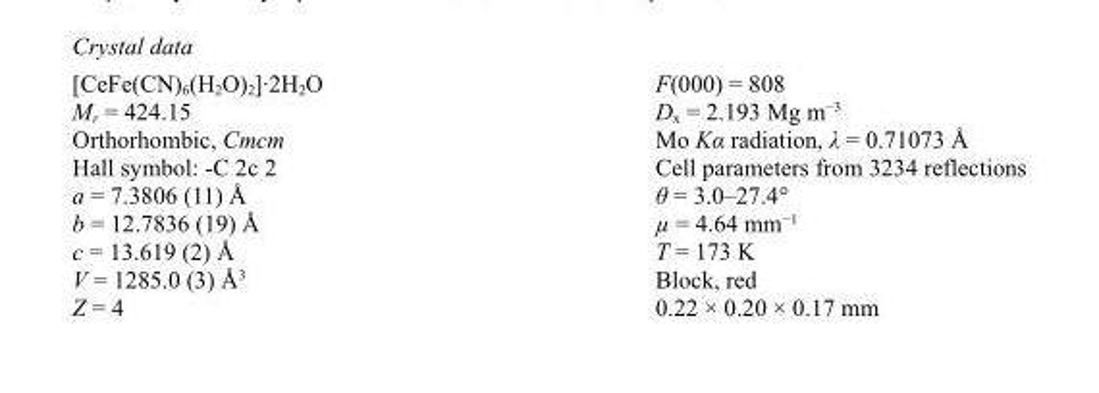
<table><tbody><tr><td>[CeFe(CN)<sub>6</sub>(H<sub>2</sub>O)<sub>2</sub>]·2H<sub>2</sub>O</td><td>F(000) = 808</td></tr><tr><td>M<sub>r</sub> = 424.15</td><td>D<sub>x</sub> = 2.193 Mg m<sup>−3</sup></td></tr><tr><td>Orthorhombic, Cmcm</td><td>Mo Kα radiation, λ = 0.71073 Å</td></tr><tr><td>Hall symbol: -C 2c 2</td><td>Cell parameters from 3234 reflections</td></tr><tr><td>a = 7.3806 (11) Å</td><td>θ = 3.0–27.4°</td></tr><tr><td>b = 12.7836 (19) Å</td><td>µ = 4.64 mm<sup>−1</sup></td></tr><tr><td>c = 13.619 (2) Å</td><td>T = 173 K</td></tr><tr><td>V = 1285.0 (3) Å<sup>3</sup></td><td>Block, red</td></tr><tr><td>Z = 4</td><td>0.22 × 0.20 × 0.17 mm</td></tr></tbody></table>